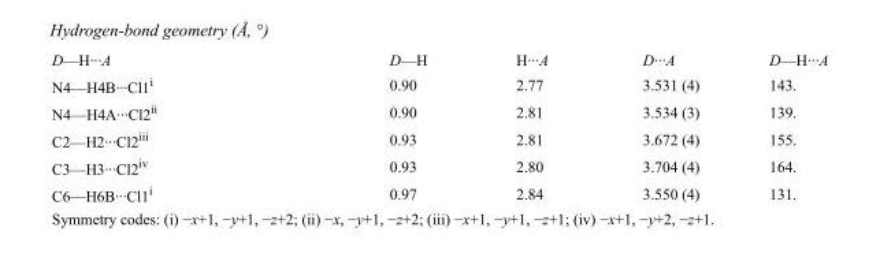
<table><tbody><tr><td>D—H···A</td><td>D—H</td><td>H···A</td><td>D···A</td><td>D—H···A</td></tr><tr><td>N4—H4B···Cl1<sup>i</sup></td><td>0.90</td><td>2.77</td><td>3.531 (4)</td><td>143.</td></tr><tr><td>N4—H4A···Cl2<sup>ii</sup></td><td>0.90</td><td>2.81</td><td>3.534 (3)</td><td>139.</td></tr><tr><td>C2—H2···Cl2<sup>iii</sup></td><td>0.93</td><td>2.81</td><td>3.672 (4)</td><td>155.</td></tr><tr><td>C3—H3···Cl2<sup>iv</sup></td><td>0.93</td><td>2.80</td><td>3.704 (4)</td><td>164.</td></tr><tr><td>C6—H6B···Cl1<sup>i</sup></td><td>0.97</td><td>2.84</td><td>3.550 (4)</td><td>131.</td></tr></tbody></table>